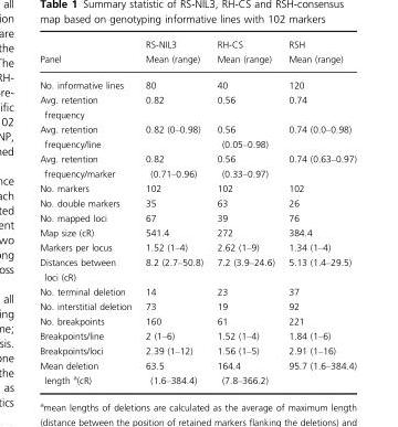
<table><thead><tr><td rowspan="2">Panel</td><td rowspan="2">RS-NIL3 Mean (range)</td><td rowspan="2">RH-CS Mean (range)</td><td rowspan="2">RSH Mean (range)</td></tr><tr></tr></thead><tbody><tr><td>No. informative lines</td><td>80</td><td>40</td><td>120</td></tr><tr><td>Avg. retention frequency</td><td>0.82</td><td>0.56</td><td>0.74</td></tr><tr><td>Avg. retention frequency/line</td><td>0.82 (0–0.98)</td><td>0.56 (0.05–0.98)</td><td>0.74 (0.0–0.98)</td></tr><tr><td>Avg. retention frequency/marker</td><td>0.82 (0.71–0.96)</td><td>0.56 (0.33–0.97)</td><td>0.74 (0.63–0.97)</td></tr><tr><td>No. markers</td><td>102</td><td>102</td><td>102</td></tr><tr><td>No. double markers</td><td>35</td><td>63</td><td>26</td></tr><tr><td>No. mapped loci</td><td>67</td><td>39</td><td>76</td></tr><tr><td>Map size (cR)</td><td>541.4</td><td>272</td><td>384.4</td></tr><tr><td>Markers per locus</td><td>1.52 (1–4)</td><td>2.62 (1–9)</td><td>1.34 (1–4)</td></tr><tr><td>Distances between loci (cR)</td><td>8.2 (2.7–50.8)</td><td>7.2 (3.9–24.6)</td><td>5.13 (1.4–29.5)</td></tr><tr><td>No. terminal deletion</td><td>14</td><td>23</td><td>37</td></tr><tr><td>No. interstitial deletion</td><td>73</td><td>19</td><td>92</td></tr><tr><td>No. breakpoints</td><td>160</td><td>61</td><td>221</td></tr><tr><td>Breakpoints/line</td><td>2 (1–6)</td><td>1.52 (1–4)</td><td>1.84 (1–6)</td></tr><tr><td>Breakpoints/loci</td><td>2.39 (1–12)</td><td>1.56 (1–5)</td><td>2.91 (1–16)</td></tr><tr><td>Mean deletion length a(cR)</td><td>63.5 (1.6–384.4)</td><td>164.4 (7.8–366.2)</td><td>95.7 (1.6–384.4)</td></tr></tbody></table>